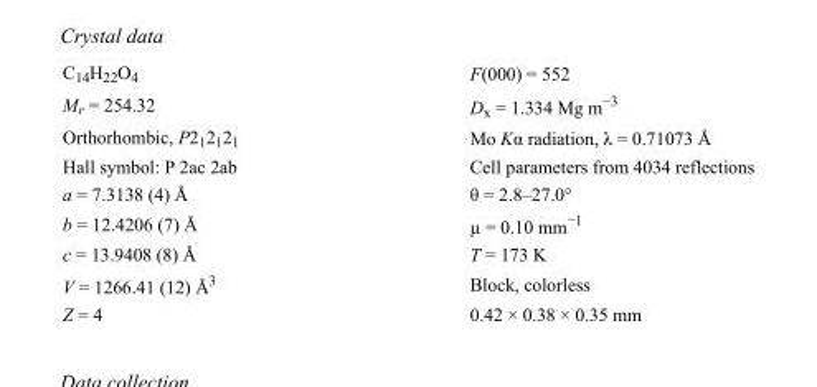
<table><tbody><tr><td>C<sub>14</sub>H<sub>22</sub>O<sub>4</sub></td><td>F(000) = 552</td></tr><tr><td>M<sub>r</sub> = 254.32</td><td>D<sub>x</sub> = 1.334 Mg m<sup>−3</sup></td></tr><tr><td>Orthorhombic, P2<sub>1</sub>2<sub>1</sub>2<sub>1</sub></td><td>Mo Kα radiation, λ = 0.71073 Å</td></tr><tr><td>Hall symbol: P 2ac 2ab</td><td>Cell parameters from 4034 reflections</td></tr><tr><td>a = 7.3138 (4) Å</td><td>θ = 2.8–27.0°</td></tr><tr><td>b = 12.4206 (7) Å</td><td>µ = 0.10 mm<sup>−1</sup></td></tr><tr><td>c = 13.9408 (8) Å</td><td>T = 173 K</td></tr><tr><td>V = 1266.41 (12) Å<sup>3</sup></td><td>Block, colorless</td></tr><tr><td>Z = 4</td><td>0.42 × 0.38 × 0.35 mm</td></tr></tbody></table>